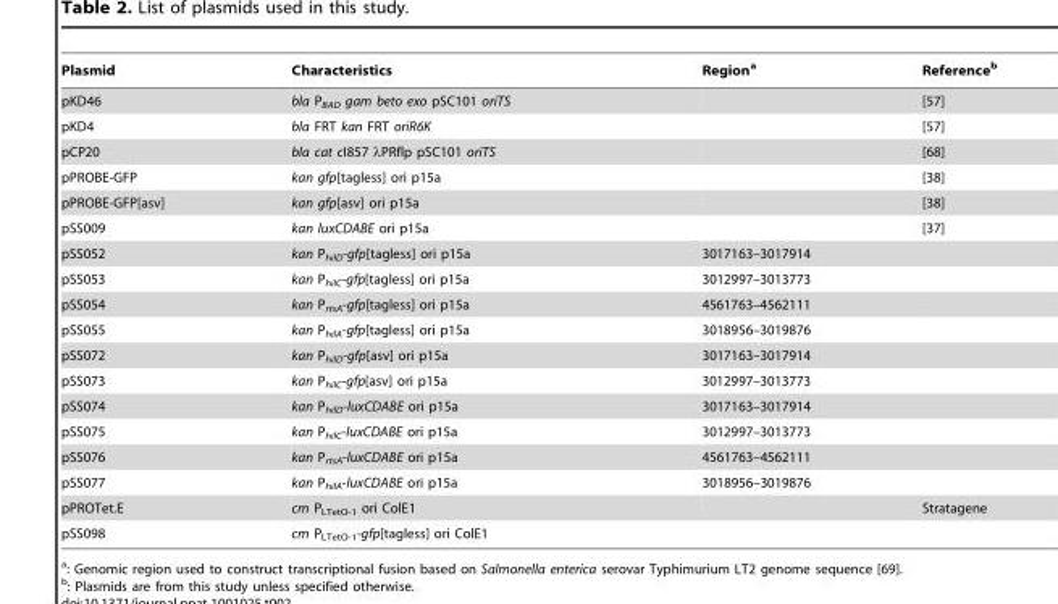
<table><thead><tr><td>Plasmid</td><td>Characteristics</td><td>Region<sup>a</sup></td><td>Reference<sup>b</sup></td></tr></thead><tbody><tr><td>pKD46</td><td>bla P<sub>BAD</sub> gam beto exo pSC101 oriTS</td><td></td><td>[57]</td></tr><tr><td>pKD4</td><td>bla FRT kan FRT oriR6K</td><td></td><td>[57]</td></tr><tr><td>pCP20</td><td>bla cat cI857 λPRflp pSC101 oriTS</td><td></td><td>[68]</td></tr><tr><td>pPROBE-GFP</td><td>kan gfp[tagless] ori p15a</td><td></td><td>[38]</td></tr><tr><td>pPROBE-GFP[asv]</td><td>kan gfp[asv] ori p15a</td><td></td><td>[38]</td></tr><tr><td>pSS009</td><td>kan luxCDABE ori p15a</td><td></td><td>[37]</td></tr><tr><td>pSS052</td><td>kan P<sub>hilD</sub>-gfp[tagless] ori p15a</td><td>3017163–3017914</td><td></td></tr><tr><td>pSS053</td><td>kan P<sub>hilC</sub>-gfp[tagless] ori p15a</td><td>3012997–3013773</td><td></td></tr><tr><td>pSS054</td><td>kan P<sub>rtsA</sub>-gfp[tagless] ori p15a</td><td>4561763–4562111</td><td></td></tr><tr><td>pSS055</td><td>kan P<sub>hilA</sub>-gfp[tagless] ori p15a</td><td>3018956–3019876</td><td></td></tr><tr><td>pSS072</td><td>kan P<sub>hilD</sub>-gfp[asv] ori p15a</td><td>3017163–3017914</td><td></td></tr><tr><td>pSS073</td><td>kan P<sub>hilC</sub>-gfp[asv] ori p15a</td><td>3012997–3013773</td><td></td></tr><tr><td>pSS074</td><td>kan P<sub>hilD</sub>-luxCDABE ori p15a</td><td>3017163–3017914</td><td></td></tr><tr><td>pSS075</td><td>kan P<sub>hilC</sub>-luxCDABE ori p15a</td><td>3012997–3013773</td><td></td></tr><tr><td>pSS076</td><td>kan P<sub>rtsA</sub>-luxCDABE ori p15a</td><td>4561763–4562111</td><td></td></tr><tr><td>pSS077</td><td>kan P<sub>hilA</sub>-luxCDABE ori p15a</td><td>3018956–3019876</td><td></td></tr><tr><td>pPROTet.E</td><td>cm P<sub>LTetO-1</sub> ori ColE1</td><td></td><td>Stratagene</td></tr><tr><td>pSS098</td><td>cm P<sub>LTetO-1</sub>-gfp[tagless] ori ColE1</td><td></td><td></td></tr></tbody></table>